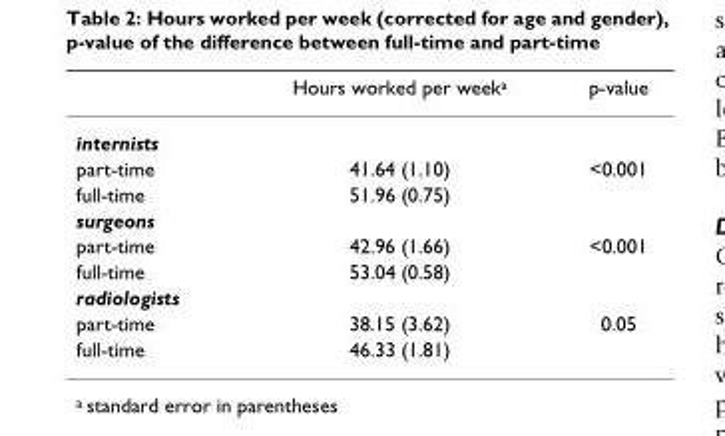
<table><thead><tr><td></td><td>Hours worked per weeka</td><td>p-value</td></tr></thead><tbody><tr><td colspan="3">internists</td></tr><tr><td>part-time</td><td>41.64 (1.10)</td><td>&lt;0.001</td></tr><tr><td>full-time</td><td>51.96 (0.75)</td><td></td></tr><tr><td colspan="3">surgeons</td></tr><tr><td>part-time</td><td>42.96 (1.66)</td><td>&lt;0.001</td></tr><tr><td>full-time</td><td>53.04 (0.58)</td><td></td></tr><tr><td colspan="3">radiologists</td></tr><tr><td>part-time</td><td>38.15 (3.62)</td><td>0.05</td></tr><tr><td>full-time</td><td>46.33 (1.81)</td><td></td></tr></tbody></table>